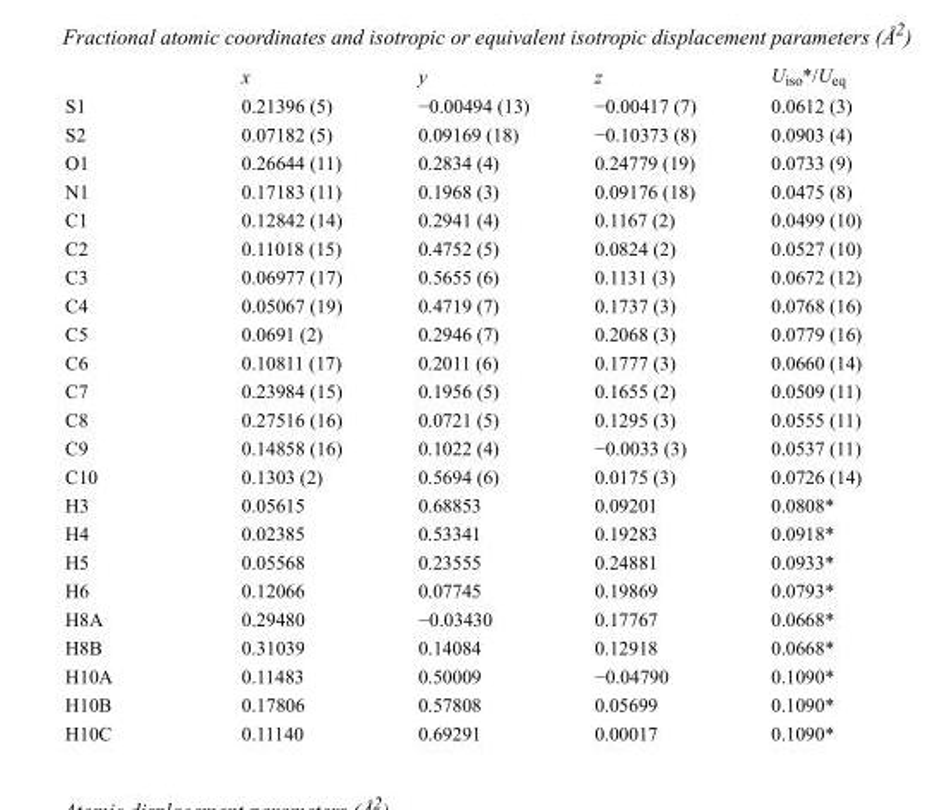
<table><thead><tr><td></td><td>x</td><td>y</td><td>z</td><td>U<sub>iso</sub>*/U<sub>eq</sub></td></tr></thead><tbody><tr><td>S1</td><td>0.21396 (5)</td><td>−0.00494 (13)</td><td>−0.00417 (7)</td><td>0.0612 (3)</td></tr><tr><td>S2</td><td>0.07182 (5)</td><td>0.09169 (18)</td><td>−0.10373 (8)</td><td>0.0903 (4)</td></tr><tr><td>O1</td><td>0.26644 (11)</td><td>0.2834 (4)</td><td>0.24779 (19)</td><td>0.0733 (9)</td></tr><tr><td>N1</td><td>0.17183 (11)</td><td>0.1968 (3)</td><td>0.09176 (18)</td><td>0.0475 (8)</td></tr><tr><td>C1</td><td>0.12842 (14)</td><td>0.2941 (4)</td><td>0.1167 (2)</td><td>0.0499 (10)</td></tr><tr><td>C2</td><td>0.11018 (15)</td><td>0.4752 (5)</td><td>0.0824 (2)</td><td>0.0527 (10)</td></tr><tr><td>C3</td><td>0.06977 (17)</td><td>0.5655 (6)</td><td>0.1131 (3)</td><td>0.0672 (12)</td></tr><tr><td>C4</td><td>0.05067 (19)</td><td>0.4719 (7)</td><td>0.1737 (3)</td><td>0.0768 (16)</td></tr><tr><td>C5</td><td>0.0691 (2)</td><td>0.2946 (7)</td><td>0.2068 (3)</td><td>0.0779 (16)</td></tr><tr><td>C6</td><td>0.10811 (17)</td><td>0.2011 (6)</td><td>0.1777 (3)</td><td>0.0660 (14)</td></tr><tr><td>C7</td><td>0.23984 (15)</td><td>0.1956 (5)</td><td>0.1655 (2)</td><td>0.0509 (11)</td></tr><tr><td>C8</td><td>0.27516 (16)</td><td>0.0721 (5)</td><td>0.1295 (3)</td><td>0.0555 (11)</td></tr><tr><td>C9</td><td>0.14858 (16)</td><td>0.1022 (4)</td><td>−0.0033 (3)</td><td>0.0537 (11)</td></tr><tr><td>C10</td><td>0.1303 (2)</td><td>0.5694 (6)</td><td>0.0175 (3)</td><td>0.0726 (14)</td></tr><tr><td>H3</td><td>0.05615</td><td>0.68853</td><td>0.09201</td><td>0.0808*</td></tr><tr><td>H4</td><td>0.02385</td><td>0.53341</td><td>0.19283</td><td>0.0918*</td></tr><tr><td>H5</td><td>0.05568</td><td>0.23555</td><td>0.24881</td><td>0.0933*</td></tr><tr><td>H6</td><td>0.12066</td><td>0.07745</td><td>0.19869</td><td>0.0793*</td></tr><tr><td>H8A</td><td>0.29480</td><td>−0.03430</td><td>0.17767</td><td>0.0668*</td></tr><tr><td>H8B</td><td>0.31039</td><td>0.14084</td><td>0.12918</td><td>0.0668*</td></tr><tr><td>H10A</td><td>0.11483</td><td>0.50009</td><td>−0.04790</td><td>0.1090*</td></tr><tr><td>H10B</td><td>0.17806</td><td>0.57808</td><td>0.05699</td><td>0.1090*</td></tr><tr><td>H10C</td><td>0.11140</td><td>0.69291</td><td>0.00017</td><td>0.1090*</td></tr></tbody></table>